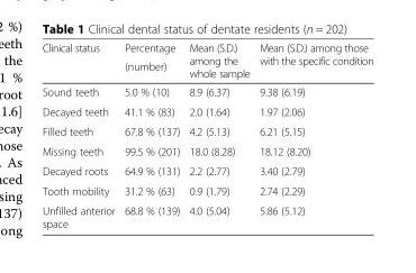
<table><thead><tr><td rowspan="2">Clinical status</td><td rowspan="2">Percentage (number)</td><td rowspan="2">Mean (S.D.) among the whole sample</td><td rowspan="2">Mean (S.D.) among those with the specific condition</td></tr><tr></tr></thead><tbody><tr><td>Sound teeth</td><td>5.0 % (10)</td><td>8.9 (6.37)</td><td>9.38 (6.19)</td></tr><tr><td>Decayed teeth</td><td>41.1 % (83)</td><td>2.0 (1.64)</td><td>1.97 (2.06)</td></tr><tr><td>Filled teeth</td><td>67.8 % (137)</td><td>4.2 (5.13)</td><td>6.21 (5.15)</td></tr><tr><td>Missing teeth</td><td>99.5 % (201)</td><td>18.0 (8.28)</td><td>18.12 (8.20)</td></tr><tr><td>Decayed roots</td><td>64.9 % (131)</td><td>2.2 (2.77)</td><td>3.40 (2.79)</td></tr><tr><td>Tooth mobility</td><td>31.2 % (63)</td><td>0.9 (1.79)</td><td>2.74 (2.29)</td></tr><tr><td>Unfilled anterior space</td><td>68.8 % (139)</td><td>4.0 (5.04)</td><td>5.86 (5.12)</td></tr></tbody></table>